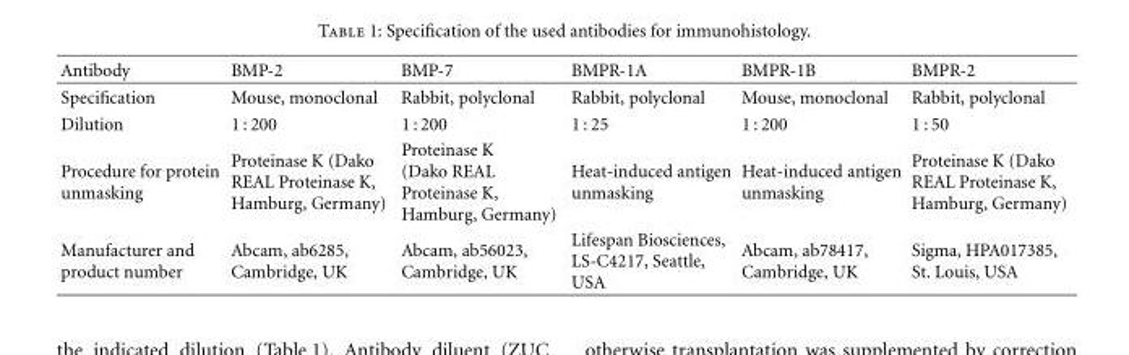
<table><thead><tr><td>Antibody</td><td>BMP-2</td><td>BMP-7</td><td>BMPR-1A</td><td>BMPR-1B</td><td>BMPR-2</td></tr></thead><tbody><tr><td>Specification</td><td>Mouse, monoclonal</td><td>Rabbit, polyclonal</td><td>Rabbit, polyclonal</td><td>Mouse, monoclonal</td><td>Rabbit, polyclonal</td></tr><tr><td>Dilution</td><td>1 : 200</td><td>1 : 200</td><td>1 : 25</td><td>1 : 200</td><td>1 : 50</td></tr><tr><td>Procedure for protein unmasking</td><td>Proteinase K (Dako REAL Proteinase K, Hamburg, Germany)</td><td>Proteinase K (Dako REAL Proteinase K, Hamburg, Germany)</td><td>Heat-induced antigen unmasking</td><td>Heat-induced antigen unmasking</td><td>Proteinase K (Dako REAL Proteinase K, Hamburg, Germany)</td></tr><tr><td>Manufacturer and product number</td><td>Abcam, ab6285, Cambridge, UK</td><td>Abcam, ab56023, Cambridge, UK</td><td>Lifespan Biosciences, LS-C4217, Seattle, USA</td><td>Abcam, ab78417, Cambridge, UK</td><td>Sigma, HPA017385, St. Louis, USA</td></tr></tbody></table>